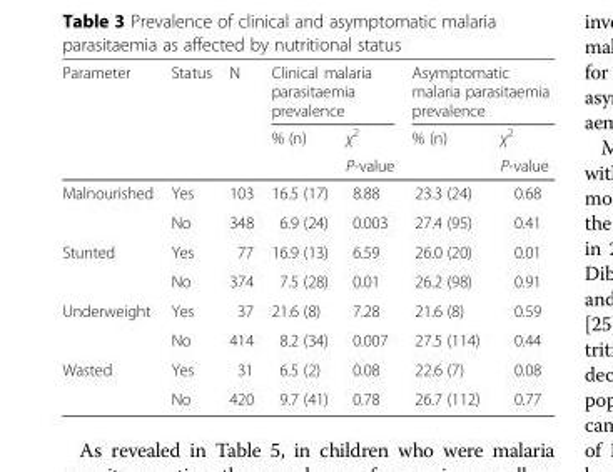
<table><thead><tr><td rowspan="3">Parameter</td><td rowspan="3">Status</td><td rowspan="3">N</td><td colspan="2">Clinical malaria parasitaemia prevalence</td><td colspan="2">Asymptomatic malaria parasitaemia prevalence</td></tr><tr><td rowspan="2">% (n)</td><td rowspan="2">χ<sup>2</sup> P-value</td><td rowspan="2">% (n)</td><td rowspan="2">χ<sup>2</sup> P-value</td></tr><tr></tr></thead><tbody><tr><td rowspan="2">Malnourished</td><td>Yes</td><td>103</td><td>16.5 (17)</td><td>8.88</td><td>23.3 (24)</td><td>0.68</td></tr><tr><td>No</td><td>348</td><td>6.9 (24)</td><td>0.003</td><td>27.4 (95)</td><td>0.41</td></tr><tr><td rowspan="2">Stunted</td><td>Yes</td><td>77</td><td>16.9 (13)</td><td>6.59</td><td>26.0 (20)</td><td>0.01</td></tr><tr><td>No</td><td>374</td><td>7.5 (28)</td><td>0.01</td><td>26.2 (98)</td><td>0.91</td></tr><tr><td rowspan="2">Underweight</td><td>Yes</td><td>37</td><td>21.6 (8)</td><td>7.28</td><td>21.6 (8)</td><td>0.59</td></tr><tr><td>No</td><td>414</td><td>8.2 (34)</td><td>0.007</td><td>27.5 (114)</td><td>0.44</td></tr><tr><td rowspan="2">Wasted</td><td>Yes</td><td>31</td><td>6.5 (2)</td><td>0.08</td><td>22.6 (7)</td><td>0.08</td></tr><tr><td>No</td><td>420</td><td>9.7 (41)</td><td>0.78</td><td>26.7 (112)</td><td>0.77</td></tr></tbody></table>